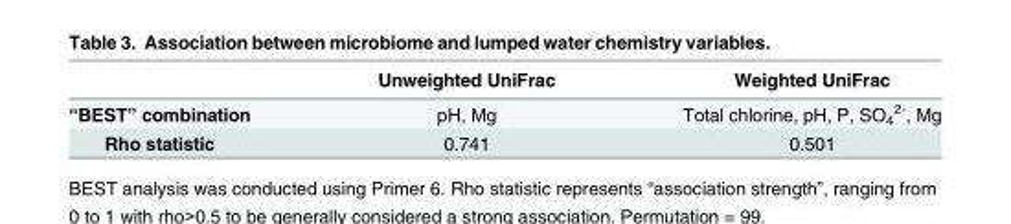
<table><thead><tr><td></td><td>Unweighted UniFrac</td><td>Weighted UniFrac</td></tr></thead><tbody><tr><td>“BEST” combination</td><td>pH, Mg</td><td>Total chlorine, pH, P, SO<sub>4</sub> <sup>2-</sup>, Mg</td></tr><tr><td>Rho statistic</td><td>0.741</td><td>0.501</td></tr></tbody></table>